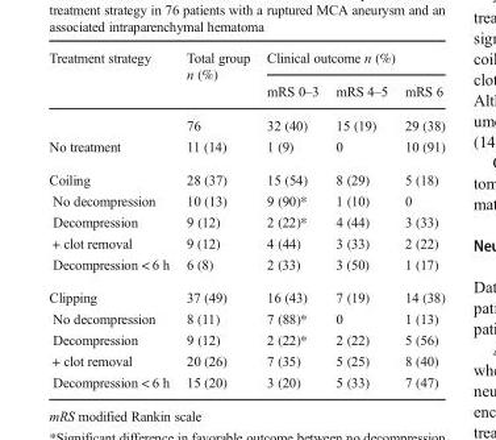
<table><thead><tr><td rowspan="2">Treatment strategy</td><td rowspan="2">Total group n (%)</td><td colspan="3">Clinical outcome n (%)</td></tr><tr><td>mRS 0–3</td><td>mRS 4–5</td><td>mRS 6</td></tr></thead><tbody><tr><td></td><td>76</td><td>32 (40)</td><td>15 (19)</td><td>29 (38)</td></tr><tr><td>No treatment</td><td>11 (14)</td><td>1 (9)</td><td>0</td><td>10 (91)</td></tr><tr><td>Coiling</td><td>28 (37)</td><td>15 (54)</td><td>8 (29)</td><td>5 (18)</td></tr><tr><td>No decompression</td><td>10 (13)</td><td>9 (90)*</td><td>1 (10)</td><td>0</td></tr><tr><td>Decompression</td><td>9 (12)</td><td>2 (22)*</td><td>4 (44)</td><td>3 (33)</td></tr><tr><td>+ clot removal</td><td>9 (12)</td><td>4 (44)</td><td>3 (33)</td><td>2 (22)</td></tr><tr><td>Decompression &lt; 6 h</td><td>6 (8)</td><td>2 (33)</td><td>3 (50)</td><td>1 (17)</td></tr><tr><td>Clipping</td><td>37 (49)</td><td>16 (43)</td><td>7 (19)</td><td>14 (38)</td></tr><tr><td>No decompression</td><td>8 (11)</td><td>7 (88)*</td><td>0</td><td>1 (13)</td></tr><tr><td>Decompression</td><td>9 (12)</td><td>2 (22)*</td><td>2 (22)</td><td>5 (56)</td></tr><tr><td>+ clot removal</td><td>20 (26)</td><td>7 (35)</td><td>5 (25)</td><td>8 (40)</td></tr><tr><td>Decompression &lt; 6 h</td><td>15 (20)</td><td>3 (20)</td><td>5 (33)</td><td>7 (47)</td></tr></tbody></table>